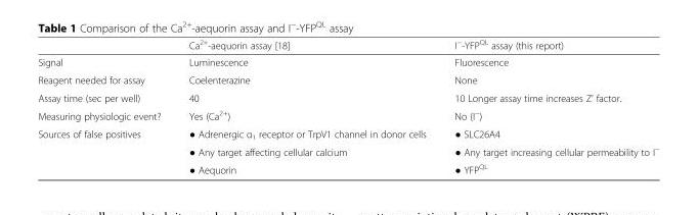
<table><thead><tr><td></td><td>Ca<sup>2+</sup>-aequorin assay [18]</td><td>I<sup>−</sup>-YFP<sup>QL</sup> assay (this report)</td></tr></thead><tbody><tr><td>Signal</td><td>Luminescence</td><td>Fluorescence</td></tr><tr><td>Reagent needed for assay</td><td>Coelenterazine</td><td>None</td></tr><tr><td>Assay time (sec per well)</td><td>40</td><td>10 Longer assay time increases Z’ factor.</td></tr><tr><td>Measuring physiologic event?</td><td>Yes (Ca<sup>2+</sup>)</td><td>No (I<sup>−</sup>)</td></tr><tr><td rowspan="3">Sources of false positives</td><td>● Adrenergic α<sub>1</sub> receptor or TrpV1 channel in donor cells</td><td>● SLC26A4</td></tr><tr><td>● Any target affecting cellular calcium</td><td>● Any target increasing cellular permeability to I<sup>−</sup></td></tr><tr><td>● Aequorin</td><td>● YFP<sup>QL</sup></td></tr></tbody></table>